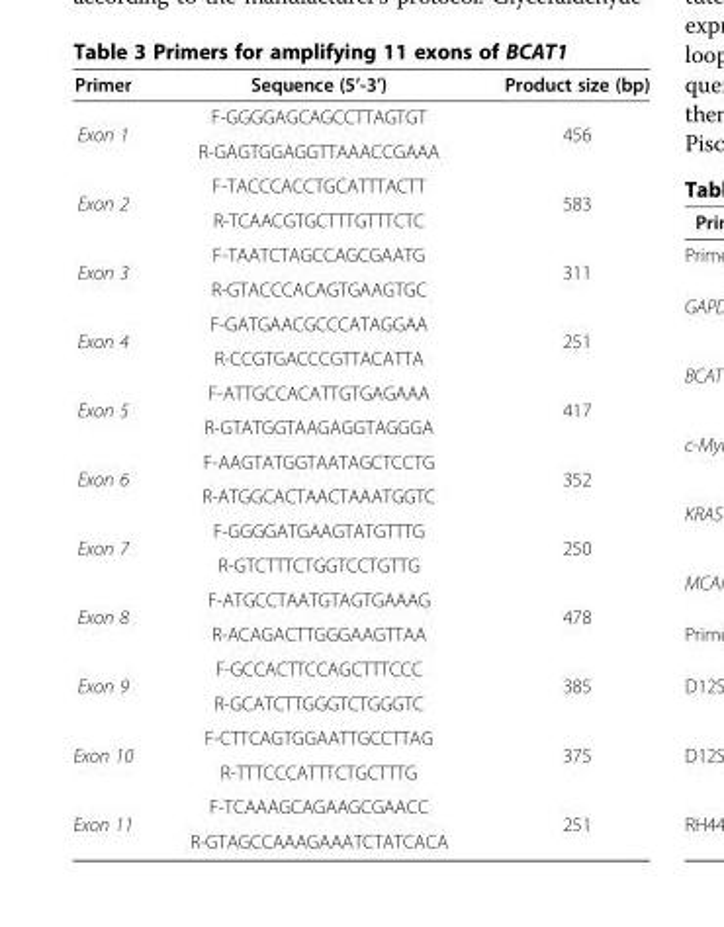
<table><thead><tr><td>Primer</td><td>Sequence (5’-3’)</td><td>Product size (bp)</td></tr></thead><tbody><tr><td rowspan="2">Exon 1</td><td>F-GGGGAGCAGCCTTAGTGT</td><td rowspan="2">456</td></tr><tr><td>R-GAGTGGAGGTTAAACCGAAA</td></tr><tr><td rowspan="2">Exon 2</td><td>F-TACCCACCTGCATTTACTT</td><td rowspan="2">583</td></tr><tr><td>R-TCAACGTGCTTTGTTTCTC</td></tr><tr><td rowspan="2">Exon 3</td><td>F-TAATCTAGCCAGCGAATG</td><td rowspan="2">311</td></tr><tr><td>R-GTACCCACAGTGAAGTGC</td></tr><tr><td rowspan="2">Exon 4</td><td>F-GATGAACGCCCATAGGAA</td><td rowspan="2">251</td></tr><tr><td>R-CCGTGACCCGTTACATTA</td></tr><tr><td rowspan="2">Exon 5</td><td>F-ATTGCCACATTGTGAGAAA</td><td rowspan="2">417</td></tr><tr><td>R-GTATGGTAAGAGGTAGGGA</td></tr><tr><td rowspan="2">Exon 6</td><td>F-AAGTATGGTAATAGCTCCTG</td><td rowspan="2">352</td></tr><tr><td>R-ATGGCACTAACTAAATGGTC</td></tr><tr><td rowspan="2">Exon 7</td><td>F-GGGGATGAAGTATGTTTG</td><td rowspan="2">250</td></tr><tr><td>R-GTCTTTCTGGTCCTGTTG</td></tr><tr><td rowspan="2">Exon 8</td><td>F-ATGCCTAATGTAGTGAAAG</td><td rowspan="2">478</td></tr><tr><td>R-ACAGACTTGGGAAGTTAA</td></tr><tr><td rowspan="2">Exon 9</td><td>F-GCCACTTCCAGCTTTCCC</td><td rowspan="2">385</td></tr><tr><td>R-GCATCTTGGGTCTGGGTC</td></tr><tr><td rowspan="2">Exon 10</td><td>F-CTTCAGTGGAATTGCCTTAG</td><td rowspan="2">375</td></tr><tr><td>R-TTTCCCATTTCTGCTTTG</td></tr><tr><td rowspan="2">Exon 11</td><td>F-TCAAAGCAGAAGCGAACC</td><td rowspan="2">251</td></tr><tr><td>R-GTAGCCAAAGAAATCTATCACA</td></tr></tbody></table>